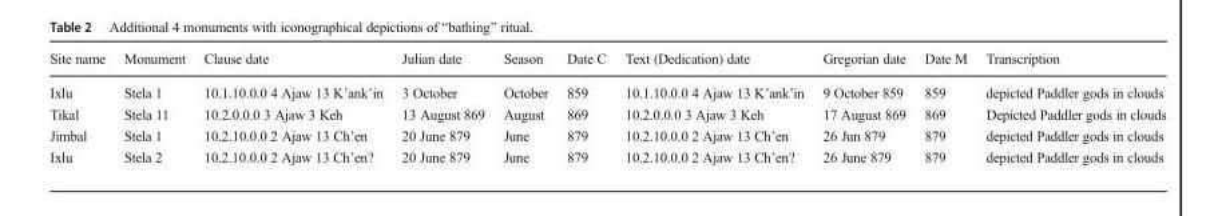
<table><thead><tr><td>Site name</td><td>Monument</td><td>Clause date</td><td>Julian date</td><td>Season</td><td>Date C</td><td>Text (Dedication) date</td><td>Gregorian date</td><td>Date M</td><td>Transcription</td></tr></thead><tbody><tr><td>Ixlu</td><td>Stela 1</td><td>10.1.10.0.0 4 Ajaw 13 K’ank’in</td><td>3 October</td><td>October</td><td>859</td><td>10.1.10.0.0 4 Ajaw 13 K’ank’in</td><td>9 October 859</td><td>859</td><td>depicted Paddler gods in clouds</td></tr><tr><td>Tikal</td><td>Stela 11</td><td>10.2.0.0.0 3 Ajaw 3 Keh</td><td>13 August 869</td><td>August</td><td>869</td><td>10.2.0.0.0 3 Ajaw 3 Keh</td><td>17 August 869</td><td>869</td><td>Depicted Paddler gods in clouds</td></tr><tr><td>Jimbal</td><td>Stela 1</td><td>10.2.10.0.0 2 Ajaw 13 Ch’en</td><td>20 June 879</td><td>June</td><td>879</td><td>10.2.10.0.0 2 Ajaw 13 Ch’en</td><td>26 Jun 879</td><td>879</td><td>depicted Paddler gods in clouds</td></tr><tr><td>Ixlu</td><td>Stela 2</td><td>10.2.10.0.0 2 Ajaw 13 Ch’en?</td><td>20 June 879</td><td>June</td><td>879</td><td>10.2.10.0.0 2 Ajaw 13 Ch’en?</td><td>26 June 879</td><td>879</td><td>depicted Paddler gods in clouds</td></tr></tbody></table>